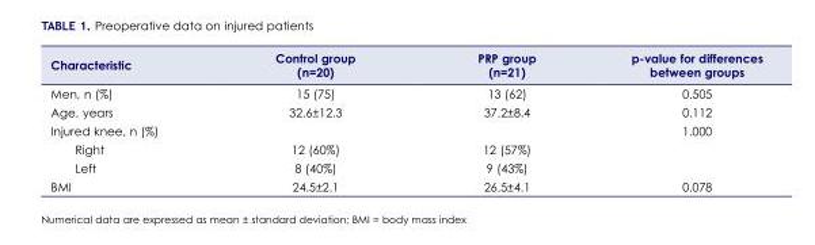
<table><thead><tr><td>Characteristic</td><td>Control group (n=20)</td><td>PRP group (n=21)</td><td>p-value for differences between groups</td></tr></thead><tbody><tr><td>Men, n (%)</td><td>15 (75)</td><td>13 (62)</td><td>0.505</td></tr><tr><td>Age, years</td><td>32.6±12.3</td><td>37.2±8.4</td><td>0.112</td></tr><tr><td>Injured knee, n (%)</td><td></td><td></td><td>1.000</td></tr><tr><td>Right</td><td>12 (60%)</td><td>12 (57%)</td><td></td></tr><tr><td>Left</td><td>8 (40%)</td><td>9 (43%)</td><td></td></tr><tr><td>BMI</td><td>24.5±2.1</td><td>26.5±4.1</td><td>0.078</td></tr></tbody></table>